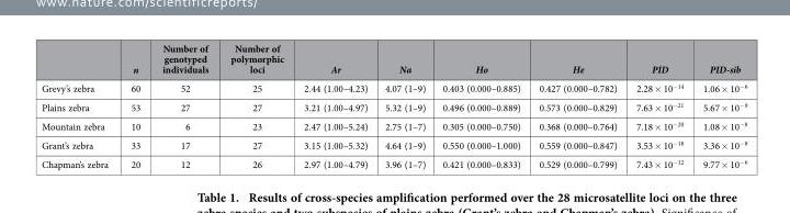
<table><thead><tr><td></td><td>n</td><td>Number of genotyped individuals</td><td>Number of polymorphic loci</td><td>Ar</td><td>Na</td><td>Ho</td><td>He</td><td>PID</td><td>PID-sib</td></tr></thead><tbody><tr><td>Grevy’s zebra</td><td>60</td><td>52</td><td>25</td><td>2.44 (1.00–4.23)</td><td>4.07 (1–9)</td><td>0.403 (0.000–0.885)</td><td>0.427 (0.000–0.782)</td><td>2.28 × 10<sup>−14</sup></td><td>1.06 × 10<sup>−6</sup></td></tr><tr><td>Plains zebra</td><td>53</td><td>27</td><td>27</td><td>3.21 (1.00–4.97)</td><td>5.32 (1–9)</td><td>0.496 (0.000–0.889)</td><td>0.573 (0.000–0.829)</td><td>7.63 × 10<sup>−21</sup></td><td>5.67 × 10<sup>−9</sup></td></tr><tr><td>Mountain zebra</td><td>10</td><td>6</td><td>23</td><td>2.47 (1.00–5.24)</td><td>2.75 (1–7)</td><td>0.305 (0.000–0.750)</td><td>0.368 (0.000–0.764)</td><td>7.18 × 10<sup>−20</sup></td><td>1.08 × 10<sup>−8</sup></td></tr><tr><td>Grant’s zebra</td><td>33</td><td>17</td><td>27</td><td>3.15 (1.00–5.32)</td><td>4.64 (1–9)</td><td>0.550 (0.000–1.000)</td><td>0.559 (0.000–0.847)</td><td>3.53 × 10<sup>−18</sup></td><td>3.36 × 10<sup>−8</sup></td></tr><tr><td>Chapman’s zebra</td><td>20</td><td>12</td><td>26</td><td>2.97 (1.00–4.79)</td><td>3.96 (1–7)</td><td>0.421 (0.000–0.833)</td><td>0.529 (0.000–0.799)</td><td>7.43 × 10<sup>−12</sup></td><td>9.77 × 10<sup>−6</sup></td></tr></tbody></table>